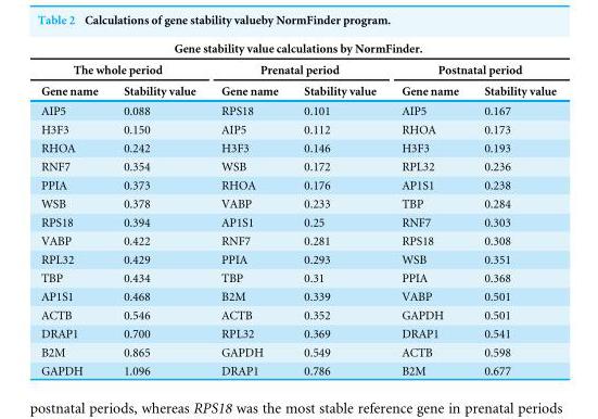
<table><thead><tr><td colspan="6">Gene stability value calculations by NormFinder.</td></tr><tr><td colspan="2">The whole period</td><td colspan="2">Prenatal period</td><td colspan="2">Postnatal period</td></tr><tr><td>Gene name</td><td>Stability value</td><td>Gene name</td><td>Stability value</td><td>Gene name</td><td>Stability value</td></tr></thead><tbody><tr><td>AIP5</td><td>0.088</td><td>RPS18</td><td>0.101</td><td>AIP5</td><td>0.167</td></tr><tr><td>H3F3</td><td>0.150</td><td>AIP5</td><td>0.112</td><td>RHOA</td><td>0.173</td></tr><tr><td>RHOA</td><td>0.242</td><td>H3F3</td><td>0.146</td><td>H3F3</td><td>0.193</td></tr><tr><td>RNF7</td><td>0.354</td><td>WSB</td><td>0.172</td><td>RPL32</td><td>0.236</td></tr><tr><td>PPIA</td><td>0.373</td><td>RHOA</td><td>0.176</td><td>AP1S1</td><td>0.238</td></tr><tr><td>WSB</td><td>0.378</td><td>VABP</td><td>0.233</td><td>TBP</td><td>0.284</td></tr><tr><td>RPS18</td><td>0.394</td><td>AP1S1</td><td>0.25</td><td>RNF7</td><td>0.303</td></tr><tr><td>VABP</td><td>0.422</td><td>RNF7</td><td>0.281</td><td>RPS18</td><td>0.308</td></tr><tr><td>RPL32</td><td>0.429</td><td>PPIA</td><td>0.293</td><td>WSB</td><td>0.351</td></tr><tr><td>TBP</td><td>0.434</td><td>TBP</td><td>0.31</td><td>PPIA</td><td>0.368</td></tr><tr><td>AP1S1</td><td>0.468</td><td>B2M</td><td>0.339</td><td>VABP</td><td>0.501</td></tr><tr><td>ACTB</td><td>0.546</td><td>ACTB</td><td>0.352</td><td>GAPDH</td><td>0.501</td></tr><tr><td>DRAP1</td><td>0.700</td><td>RPL32</td><td>0.369</td><td>DRAP1</td><td>0.541</td></tr><tr><td>B2M</td><td>0.865</td><td>GAPDH</td><td>0.549</td><td>ACTB</td><td>0.598</td></tr><tr><td>GAPDH</td><td>1.096</td><td>DRAP1</td><td>0.786</td><td>B2M</td><td>0.677</td></tr></tbody></table>